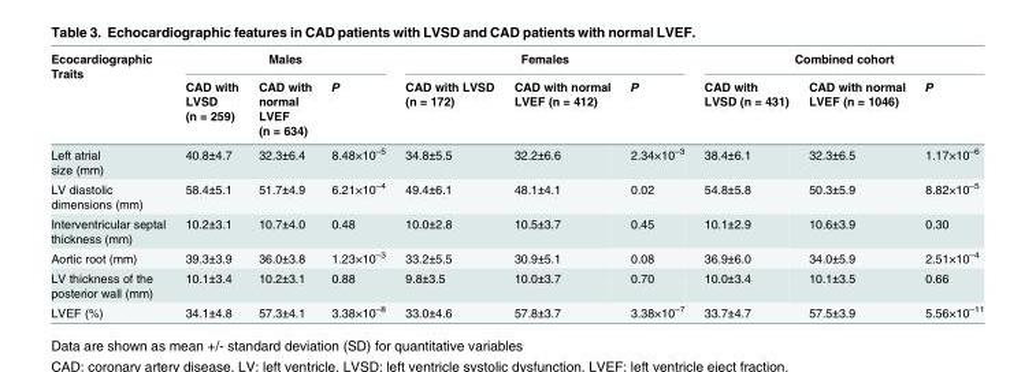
<table><thead><tr><td rowspan="2">Ecocardiographic Traits</td><td colspan="3">Males</td><td colspan="3">Females</td><td colspan="3">Combined cohort</td></tr><tr><td>CAD with LVSD (n = 259)</td><td>CAD with normal LVEF (n = 634)</td><td>P</td><td>CAD with LVSD (n = 172)</td><td>CAD with normal LVEF (n = 412)</td><td>P</td><td>CAD with LVSD (n = 431)</td><td>CAD with normal LVEF (n = 1046)</td><td>P</td></tr></thead><tbody><tr><td>Left atrial size (mm)</td><td>40.8±4.7</td><td>32.3±6.4</td><td>8.48×10<sup>–5</sup></td><td>34.8±5.5</td><td>32.2±6.6</td><td>2.34×10<sup>–3</sup></td><td>38.4±6.1</td><td>32.3±6.5</td><td>1.17×10<sup>–6</sup></td></tr><tr><td>LV diastolic dimensions (mm)</td><td>58.4±5.1</td><td>51.7±4.9</td><td>6.21×10<sup>–4</sup></td><td>49.4±6.1</td><td>48.1±4.1</td><td>0.02</td><td>54.8±5.8</td><td>50.3±5.9</td><td>8.82×10<sup>–5</sup></td></tr><tr><td>Interventricular septal thickness (mm)</td><td>10.2±3.1</td><td>10.7±4.0</td><td>0.48</td><td>10.0±2.8</td><td>10.5±3.7</td><td>0.45</td><td>10.1±2.9</td><td>10.6±3.9</td><td>0.30</td></tr><tr><td>Aortic root (mm)</td><td>39.3±3.9</td><td>36.0±3.8</td><td>1.23×10<sup>–3</sup></td><td>33.2±5.5</td><td>30.9±5.1</td><td>0.08</td><td>36.9±6.0</td><td>34.0±5.9</td><td>2.51×10<sup>–4</sup></td></tr><tr><td>LV thickness of the posterior wall (mm)</td><td>10.1±3.4</td><td>10.2±3.1</td><td>0.88</td><td>9.8±3.5</td><td>10.0±3.7</td><td>0.70</td><td>10.0±3.4</td><td>10.1±3.5</td><td>0.66</td></tr><tr><td>LVEF (%)</td><td>34.1±4.8</td><td>57.3±4.1</td><td>3.38×10<sup>–8</sup></td><td>33.0±4.6</td><td>57.8±3.7</td><td>3.38×10<sup>–7</sup></td><td>33.7±4.7</td><td>57.5±3.9</td><td>5.56×10<sup>–11</sup></td></tr></tbody></table>